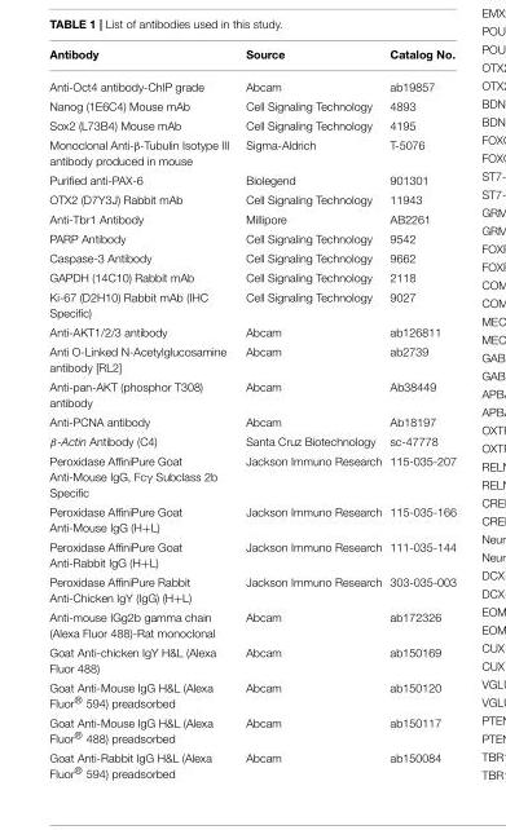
<table><thead><tr><td>Antibody</td><td>Source</td><td>Catalog No.</td></tr></thead><tbody><tr><td>Anti-Oct4 antibody-ChIP grade</td><td>Abcam</td><td>ab19857</td></tr><tr><td>Nanog (1E6C4) Mouse mAb</td><td>Cell Signaling Technology</td><td>4893</td></tr><tr><td>Sox2 (L73B4) Mouse mAb</td><td>Cell Signaling Technology</td><td>4195</td></tr><tr><td>Monoclonal Anti-β-Tubulin Isotype III antibody produced in mouse</td><td>Sigma-Aldrich</td><td>T-5076</td></tr><tr><td>Purified anti-PAX-6</td><td>Biolegend</td><td>901301</td></tr><tr><td>OTX2 (D7Y3J) Rabbit mAb</td><td>Cell Signaling Technology</td><td>11943</td></tr><tr><td>Anti-Tbr1 Antibody</td><td>Millipore</td><td>AB2261</td></tr><tr><td>PARP Antibody</td><td>Cell Signaling Technology</td><td>9542</td></tr><tr><td>Caspase-3 Antibody</td><td>Cell Signaling Technology</td><td>9662</td></tr><tr><td>GAPDH (14C10) Rabbit mAb</td><td>Cell Signaling Technology</td><td>2118</td></tr><tr><td>Ki-67 (D2H10) Rabbit mAb (IHC Specific)</td><td>Cell Signaling Technology</td><td>9027</td></tr><tr><td>Anti-AKT1/2/3 antibody</td><td>Abcam</td><td>ab126811</td></tr><tr><td>Anti O-Linked N-Acetylglucosamine antibody [RL2]</td><td>Abcam</td><td>ab2739</td></tr><tr><td>Anti-pan-AKT (phosphor T308) antibody</td><td>Abcam</td><td>Ab38449</td></tr><tr><td>Anti-PCNA antibody</td><td>Abcam</td><td>Ab18197</td></tr><tr><td>β-Actin Antibody (C4)</td><td>Santa Cruz Biotechnology</td><td>sc-47778</td></tr><tr><td>Peroxidase AffiniPure Goat Anti-Mouse IgG, Fcγ Subclass 2b Specific</td><td>Jackson Immuno Research</td><td>115-035-207</td></tr><tr><td>Peroxidase AffiniPure Goat Anti-Mouse IgG (H+L)</td><td>Jackson Immuno Research</td><td>115-035-166</td></tr><tr><td>Peroxidase AffiniPure Goat Anti-Rabbit IgG (H+L)</td><td>Jackson Immuno Research</td><td>111-035-144</td></tr><tr><td>Peroxidase AffiniPure Rabbit Anti-Chicken IgY (IgG) (H+L)</td><td>Jackson Immuno Research</td><td>303-035-003</td></tr><tr><td>Anti-mouse IGg2b gamma chain (Alexa Fluor 488)-Rat monoclonal</td><td>Abcam</td><td>ab172326</td></tr><tr><td>Goat Anti-chicken IgY H&amp;L (Alexa Fluor 488)</td><td>Abcam</td><td>ab150169</td></tr><tr><td>Goat Anti-Mouse IgG H&amp;L (Alexa Fluor® 594) preadsorbed</td><td>Abcam</td><td>ab150120</td></tr><tr><td>Goat Anti-Mouse IgG H&amp;L (Alexa Fluor® 488) preadsorbed</td><td>Abcam</td><td>ab150117</td></tr><tr><td>Goat Anti-Rabbit IgG H&amp;L (Alexa Fluor® 594) preadsorbed</td><td>Abcam</td><td>ab150084</td></tr></tbody></table>